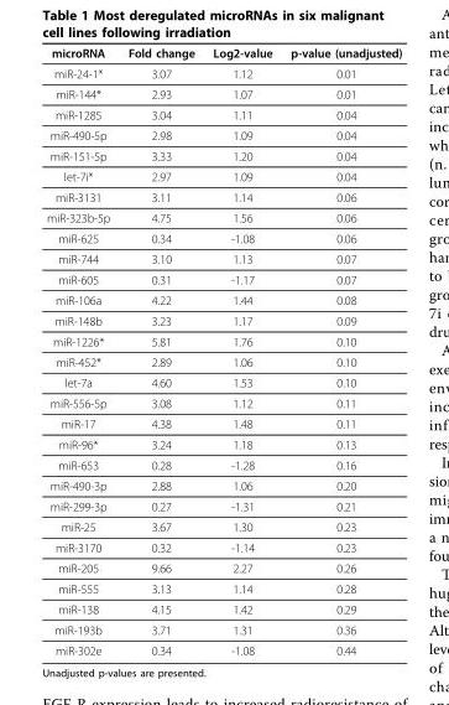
<table><thead><tr><td>microRNA</td><td>Fold change</td><td>Log2-value</td><td>p-value (unadjusted)</td></tr></thead><tbody><tr><td>miR-24-1*</td><td>3.07</td><td>1.12</td><td>0.01</td></tr><tr><td>miR-144*</td><td>2.93</td><td>1.07</td><td>0.01</td></tr><tr><td>miR-1285</td><td>3.04</td><td>1.11</td><td>0.04</td></tr><tr><td>miR-490-5p</td><td>2.98</td><td>1.09</td><td>0.04</td></tr><tr><td>miR-151-5p</td><td>3.33</td><td>1.20</td><td>0.04</td></tr><tr><td>let-7i*</td><td>2.97</td><td>1.09</td><td>0.04</td></tr><tr><td>miR-3131</td><td>3.11</td><td>1.14</td><td>0.06</td></tr><tr><td>miR-323b-5p</td><td>4.75</td><td>1.56</td><td>0.06</td></tr><tr><td>miR-625</td><td>0.34</td><td>-1.08</td><td>0.06</td></tr><tr><td>miR-744</td><td>3.10</td><td>1.13</td><td>0.07</td></tr><tr><td>miR-605</td><td>0.31</td><td>-1.17</td><td>0.07</td></tr><tr><td>miR-106a</td><td>4.22</td><td>1.44</td><td>0.08</td></tr><tr><td>miR-148b</td><td>3.23</td><td>1.17</td><td>0.09</td></tr><tr><td>miR-1226*</td><td>5.81</td><td>1.76</td><td>0.10</td></tr><tr><td>miR-452*</td><td>2.89</td><td>1.06</td><td>0.10</td></tr><tr><td>let-7a</td><td>4.60</td><td>1.53</td><td>0.10</td></tr><tr><td>miR-556-5p</td><td>3.08</td><td>1.12</td><td>0.11</td></tr><tr><td>miR-17</td><td>4.38</td><td>1.48</td><td>0.11</td></tr><tr><td>miR-96*</td><td>3.24</td><td>1.18</td><td>0.13</td></tr><tr><td>miR-653</td><td>0.28</td><td>-1.28</td><td>0.16</td></tr><tr><td>miR-490-3p</td><td>2.88</td><td>1.06</td><td>0.20</td></tr><tr><td>miR-299-3p</td><td>0.27</td><td>-1.31</td><td>0.21</td></tr><tr><td>miR-25</td><td>3.67</td><td>1.30</td><td>0.23</td></tr><tr><td>miR-3170</td><td>0.32</td><td>-1.14</td><td>0.23</td></tr><tr><td>miR-205</td><td>9.66</td><td>2.27</td><td>0.26</td></tr><tr><td>miR-555</td><td>3.13</td><td>1.14</td><td>0.28</td></tr><tr><td>miR-138</td><td>4.15</td><td>1.42</td><td>0.29</td></tr><tr><td>miR-193b</td><td>3.71</td><td>1.31</td><td>0.36</td></tr><tr><td>miR-302e</td><td>0.34</td><td>-1.08</td><td>0.44</td></tr></tbody></table>